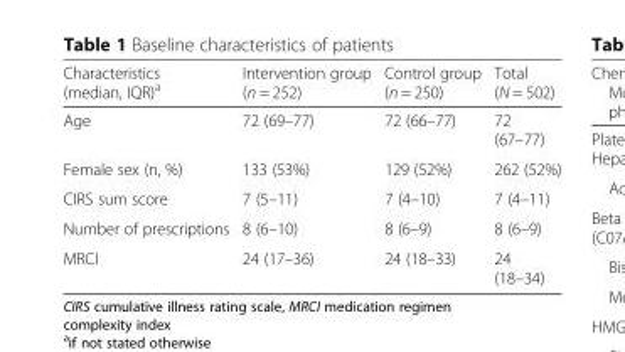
<table><thead><tr><td>Characteristics (median, IQR)<sup>a</sup></td><td>Intervention group (n = 252)</td><td>Control group (n = 250)</td><td>Total (N = 502)</td></tr></thead><tbody><tr><td>Age</td><td>72 (69–77)</td><td>72 (66–77)</td><td>72 (67–77)</td></tr><tr><td>Female sex (n, %)</td><td>133 (53%)</td><td>129 (52%)</td><td>262 (52%)</td></tr><tr><td>CIRS sum score</td><td>7 (5–11)</td><td>7 (4–10)</td><td>7 (4–11)</td></tr><tr><td>Number of prescriptions</td><td>8 (6–10)</td><td>8 (6–9)</td><td>8 (6–9)</td></tr><tr><td>MRCI</td><td>24 (17–36)</td><td>24 (18–33)</td><td>24 (18–34)</td></tr></tbody></table>